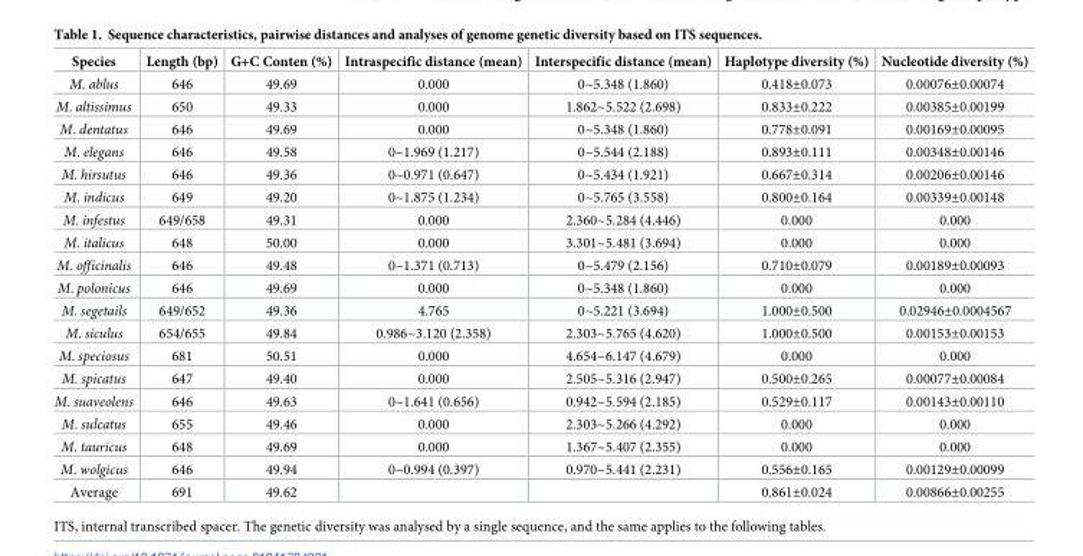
<table><thead><tr><td>Species</td><td>Length (bp)</td><td>G+C Conten (%)</td><td>Intraspecific distance (mean)</td><td>Interspecific distance (mean)</td><td>Haplotype diversity (%)</td><td>Nucleotide diversity (%)</td></tr></thead><tbody><tr><td>M. ablus</td><td>646</td><td>49.69</td><td>0.000</td><td>0~5.348 (1.860)</td><td>0.418±0.073</td><td>0.00076±0.00074</td></tr><tr><td>M. altissimus</td><td>650</td><td>49.33</td><td>0.000</td><td>1.862~5.522 (2.698)</td><td>0.833±0.222</td><td>0.00385±0.00199</td></tr><tr><td>M. dentatus</td><td>646</td><td>49.69</td><td>0.000</td><td>0~5.348 (1.860)</td><td>0.778±0.091</td><td>0.00169±0.00095</td></tr><tr><td>M. elegans</td><td>646</td><td>49.58</td><td>0~1.969 (1.217)</td><td>0~5.544 (2.188)</td><td>0.893±0.111</td><td>0.00348±0.00146</td></tr><tr><td>M. hirsutus</td><td>646</td><td>49.36</td><td>0~0.971 (0.647)</td><td>0~5.434 (1.921)</td><td>0.667±0.314</td><td>0.00206±0.00146</td></tr><tr><td>M. indicus</td><td>649</td><td>49.20</td><td>0~1.875 (1.234)</td><td>0~5.765 (3.558)</td><td>0.800±0.164</td><td>0.00339±0.00148</td></tr><tr><td>M. infestus</td><td>649/658</td><td>49.31</td><td>0.000</td><td>2.360~5.284 (4.446)</td><td>0.000</td><td>0.000</td></tr><tr><td>M. italicus</td><td>648</td><td>50.00</td><td>0.000</td><td>3.301~5.481 (3.694)</td><td>0.000</td><td>0.000</td></tr><tr><td>M. officinalis</td><td>646</td><td>49.48</td><td>0~1.371 (0.713)</td><td>0~5.479 (2.156)</td><td>0.710±0.079</td><td>0.00189±0.00093</td></tr><tr><td>M. polonicus</td><td>646</td><td>49.69</td><td>0.000</td><td>0~5.348 (1.860)</td><td>0.000</td><td>0.000</td></tr><tr><td>M. segetails</td><td>649/652</td><td>49.36</td><td>4.765</td><td>0~5.221 (3.694)</td><td>1.000±0.500</td><td>0.02946±0.0004567</td></tr><tr><td>M. siculus</td><td>654/655</td><td>49.84</td><td>0.986~3.120 (2.358)</td><td>2.303~5.765 (4.620)</td><td>1.000±0.500</td><td>0.00153±0.00153</td></tr><tr><td>M. speciosus</td><td>681</td><td>50.51</td><td>0.000</td><td>4.654~6.147 (4.679)</td><td>0.000</td><td>0.000</td></tr><tr><td>M. spicatus</td><td>647</td><td>49.40</td><td>0.000</td><td>2.505~5.316 (2.947)</td><td>0.500±0.265</td><td>0.00077±0.00084</td></tr><tr><td>M. suaveolens</td><td>646</td><td>49.63</td><td>0~1.641 (0.656)</td><td>0.942~5.594 (2.185)</td><td>0.529±0.117</td><td>0.00143±0.00110</td></tr><tr><td>M. sulcatus</td><td>655</td><td>49.46</td><td>0.000</td><td>2.303~5.266 (4.292)</td><td>0.000</td><td>0.000</td></tr><tr><td>M. tauricus</td><td>648</td><td>49.69</td><td>0.000</td><td>1.367~5.407 (2.355)</td><td>0.000</td><td>0.000</td></tr><tr><td>M. wolgicus</td><td>646</td><td>49.94</td><td>0~0.994 (0.397)</td><td>0.970~5.441 (2.231)</td><td>0.556±0.165</td><td>0.00129±0.00099</td></tr><tr><td>Average</td><td>691</td><td>49.62</td><td></td><td></td><td>0.861±0.024</td><td>0.00866±0.00255</td></tr></tbody></table>